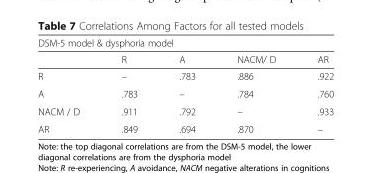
<table><thead><tr><td colspan="5">DSM-5 model &amp; dysphoria model</td></tr><tr><td></td><td>R</td><td>A</td><td>NACM/ D</td><td>AR</td></tr></thead><tbody><tr><td>R</td><td>–</td><td>.783</td><td>.886</td><td>.922</td></tr><tr><td>A</td><td>.783</td><td>–</td><td>.784</td><td>.760</td></tr><tr><td>NACM / D</td><td>.911</td><td>.792</td><td>–</td><td>.933</td></tr><tr><td>AR</td><td>.849</td><td>.694</td><td>.870</td><td>–</td></tr></tbody></table>